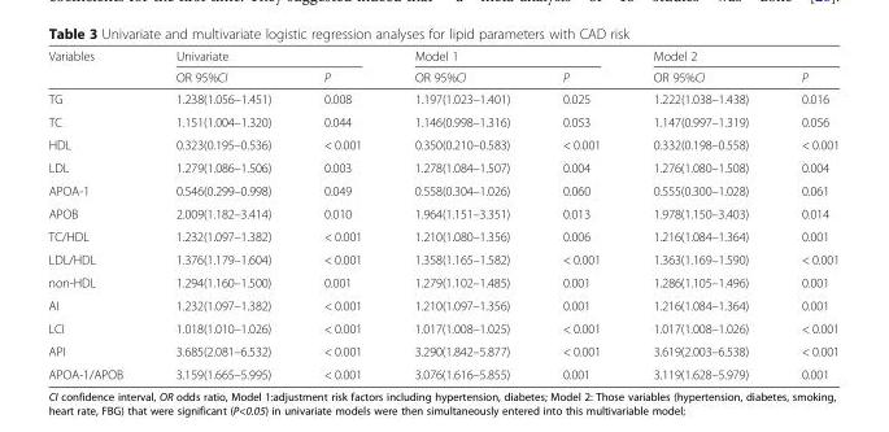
<table><thead><tr><td rowspan="2">Variables</td><td colspan="2">Univariate</td><td colspan="2">Model 1</td><td colspan="2">Model 2</td></tr><tr><td>OR 95%CI</td><td>P</td><td>OR 95%CI</td><td>P</td><td>OR 95%CI</td><td>P</td></tr></thead><tbody><tr><td>TG</td><td>1.238(1.056–1.451)</td><td>0.008</td><td>1.197(1.023–1.401)</td><td>0.025</td><td>1.222(1.038–1.438)</td><td>0.016</td></tr><tr><td>TC</td><td>1.151(1.004–1.320)</td><td>0.044</td><td>1.146(0.998–1.316)</td><td>0.053</td><td>1.147(0.997–1.319)</td><td>0.056</td></tr><tr><td>HDL</td><td>0.323(0.195–0.536)</td><td>&lt; 0.001</td><td>0.350(0.210–0.583)</td><td>&lt; 0.001</td><td>0.332(0.198–0.558)</td><td>&lt; 0.001</td></tr><tr><td>LDL</td><td>1.279(1.086–1.506)</td><td>0.003</td><td>1.278(1.084–1.507)</td><td>0.004</td><td>1.276(1.080–1.508)</td><td>0.004</td></tr><tr><td>APOA-1</td><td>0.546(0.299–0.998)</td><td>0.049</td><td>0.558(0.304–1.026)</td><td>0.060</td><td>0.555(0.300–1.028)</td><td>0.061</td></tr><tr><td>APOB</td><td>2.009(1.182–3.414)</td><td>0.010</td><td>1.964(1.151–3.351)</td><td>0.013</td><td>1.978(1.150–3.403)</td><td>0.014</td></tr><tr><td>TC/HDL</td><td>1.232(1.097–1.382)</td><td>&lt; 0.001</td><td>1.210(1.080–1.356)</td><td>0.006</td><td>1.216(1.084–1.364)</td><td>0.001</td></tr><tr><td>LDL/HDL</td><td>1.376(1.179–1.604)</td><td>&lt; 0.001</td><td>1.358(1.165–1.582)</td><td>&lt; 0.001</td><td>1.363(1.169–1.590)</td><td>&lt; 0.001</td></tr><tr><td>non-HDL</td><td>1.294(1.160–1.500)</td><td>0.001</td><td>1.279(1.102–1.485)</td><td>0.001</td><td>1.286(1.105–1.496)</td><td>0.001</td></tr><tr><td>AI</td><td>1.232(1.097–1.382)</td><td>&lt; 0.001</td><td>1.210(1.097–1.356)</td><td>0.001</td><td>1.216(1.084–1.364)</td><td>0.001</td></tr><tr><td>LCI</td><td>1.018(1.010–1.026)</td><td>&lt; 0.001</td><td>1.017(1.008–1.025)</td><td>&lt; 0.001</td><td>1.017(1.008–1.026)</td><td>&lt; 0.001</td></tr><tr><td>API</td><td>3.685(2.081–6.532)</td><td>&lt; 0.001</td><td>3.290(1.842–5.877)</td><td>&lt; 0.001</td><td>3.619(2.003–6.538)</td><td>&lt; 0.001</td></tr><tr><td>APOA-1/APOB</td><td>3.159(1.665–5.995)</td><td>&lt; 0.001</td><td>3.076(1.616–5.855)</td><td>0.001</td><td>3.119(1.628–5.979)</td><td>0.001</td></tr></tbody></table>